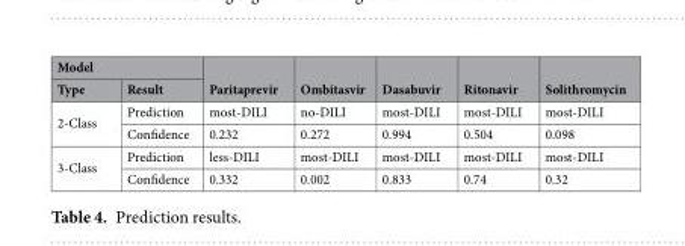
<table><thead><tr><td colspan="2">Model</td><td rowspan="2">Paritaprevir</td><td rowspan="2">Ombitasvir</td><td rowspan="2">Dasabuvir</td><td rowspan="2">Ritonavir</td><td rowspan="2">Solithromycin</td></tr><tr><td>Type</td><td>Result</td></tr></thead><tbody><tr><td rowspan="2">2-Class</td><td>Prediction</td><td>most-DILI</td><td>no-DILI</td><td>most-DILI</td><td>most-DILI</td><td>most-DILI</td></tr><tr><td>Confidence</td><td>0.232</td><td>0.272</td><td>0.994</td><td>0.504</td><td>0.098</td></tr><tr><td rowspan="2">3-Class</td><td>Prediction</td><td>less-DILI</td><td>most-DILI</td><td>most-DILI</td><td>most-DILI</td><td>most-DILI</td></tr><tr><td>Confidence</td><td>0.332</td><td>0.002</td><td>0.833</td><td>0.74</td><td>0.32</td></tr></tbody></table>